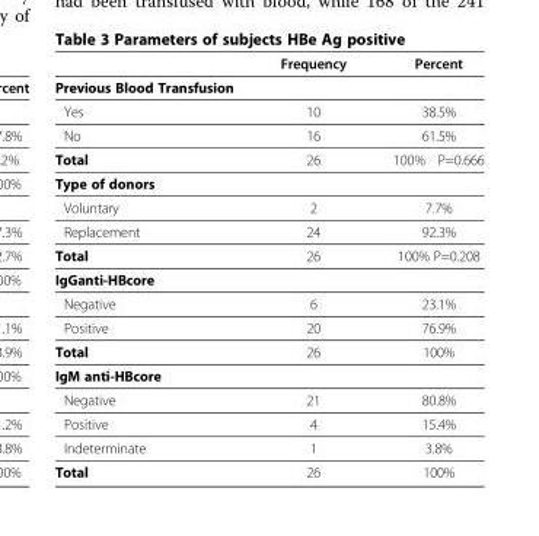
<table><thead><tr><td></td><td>Frequency</td><td>Percent</td></tr></thead><tbody><tr><td colspan="3">Previous Blood Transfusion</td></tr><tr><td>Yes</td><td>10</td><td>38.5%</td></tr><tr><td>No</td><td>16</td><td>61.5%</td></tr><tr><td>Total</td><td>26</td><td>100% P=0.666</td></tr><tr><td colspan="3">Type of donors</td></tr><tr><td>Voluntary</td><td>2</td><td>7.7%</td></tr><tr><td>Replacement</td><td>24</td><td>92.3%</td></tr><tr><td>Total</td><td>26</td><td>100% P=0.208</td></tr><tr><td colspan="3">IgGanti-HBcore</td></tr><tr><td>Negative</td><td>6</td><td>23.1%</td></tr><tr><td>Positive</td><td>20</td><td>76.9%</td></tr><tr><td>Total</td><td>26</td><td>100%</td></tr><tr><td colspan="3">IgM anti-HBcore</td></tr><tr><td>Negative</td><td>21</td><td>80.8%</td></tr><tr><td>Positive</td><td>4</td><td>15.4%</td></tr><tr><td>Indeterminate</td><td>1</td><td>3.8%</td></tr><tr><td>Total</td><td>26</td><td>100%</td></tr></tbody></table>